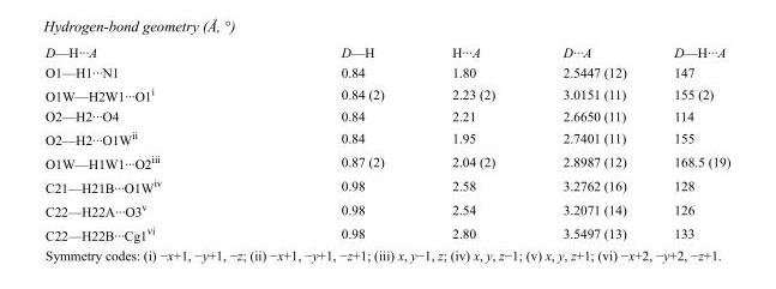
<table><tbody><tr><td>D—H···A</td><td>D—H</td><td>H···A</td><td>D···A</td><td>D—H···A</td></tr><tr><td>O1—H1···N1</td><td>0.84</td><td>1.80</td><td>2.5447 (12)</td><td>147</td></tr><tr><td>O1W—H2W1···O1<sup>i</sup></td><td>0.84 (2)</td><td>2.23 (2)</td><td>3.0151 (11)</td><td>155 (2)</td></tr><tr><td>O2—H2···O4</td><td>0.84</td><td>2.21</td><td>2.6650 (11)</td><td>114</td></tr><tr><td>O2—H2···O1W<sup>ii</sup></td><td>0.84</td><td>1.95</td><td>2.7401 (11)</td><td>155</td></tr><tr><td>O1W—H1W1···O2<sup>iii</sup></td><td>0.87 (2)</td><td>2.04 (2)</td><td>2.8987 (12)</td><td>168.5 (19)</td></tr><tr><td>C21—H21B···O1W<sup>iv</sup></td><td>0.98</td><td>2.58</td><td>3.2762 (16)</td><td>128</td></tr><tr><td>C22—H22A···O3<sup>v</sup></td><td>0.98</td><td>2.54</td><td>3.2071 (14)</td><td>126</td></tr><tr><td>C22—H22B···Cg1<sup>vi</sup></td><td>0.98</td><td>2.80</td><td>3.5497 (13)</td><td>133</td></tr></tbody></table>